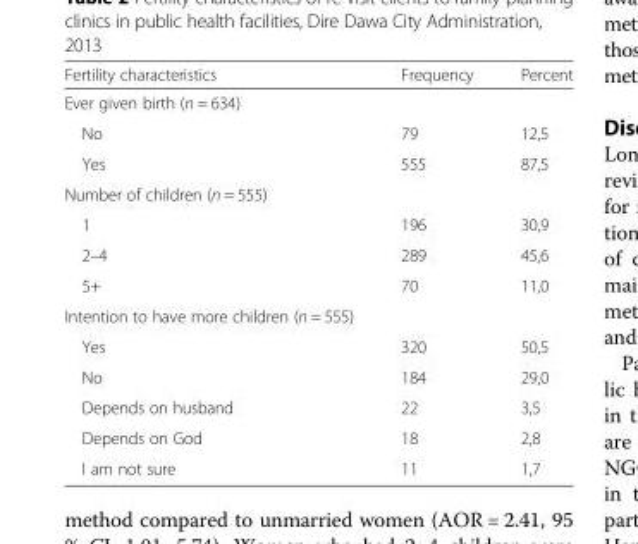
<table><thead><tr><td>Fertility characteristics</td><td>Frequency</td><td>Percent</td></tr></thead><tbody><tr><td colspan="3">Ever given birth (n = 634)</td></tr><tr><td>No</td><td>79</td><td>12,5</td></tr><tr><td>Yes</td><td>555</td><td>87,5</td></tr><tr><td colspan="3">Number of children (n = 555)</td></tr><tr><td>1</td><td>196</td><td>30,9</td></tr><tr><td>2–4</td><td>289</td><td>45,6</td></tr><tr><td>5+</td><td>70</td><td>11,0</td></tr><tr><td colspan="3">Intention to have more children (n = 555)</td></tr><tr><td>Yes</td><td>320</td><td>50,5</td></tr><tr><td>No</td><td>184</td><td>29,0</td></tr><tr><td>Depends on husband</td><td>22</td><td>3,5</td></tr><tr><td>Depends on God</td><td>18</td><td>2,8</td></tr><tr><td>I am not sure</td><td>11</td><td>1,7</td></tr></tbody></table>